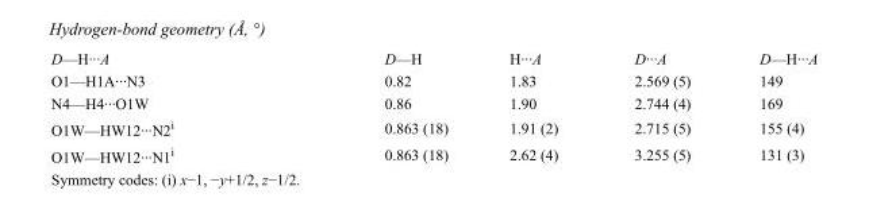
<table><tbody><tr><td>D—H···A</td><td>D—H</td><td>H···A</td><td>D···A</td><td>D—H···A</td></tr><tr><td>O1—H1A···N3</td><td>0.82</td><td>1.83</td><td>2.569 (5)</td><td>149</td></tr><tr><td>N4—H4···O1W</td><td>0.86</td><td>1.90</td><td>2.744 (4)</td><td>169</td></tr><tr><td>O1W—HW12···N2<sup>i</sup></td><td>0.863 (18)</td><td>1.91 (2)</td><td>2.715 (5)</td><td>155 (4)</td></tr><tr><td>O1W—HW12···N1<sup>i</sup></td><td>0.863 (18)</td><td>2.62 (4)</td><td>3.255 (5)</td><td>131 (3)</td></tr></tbody></table>